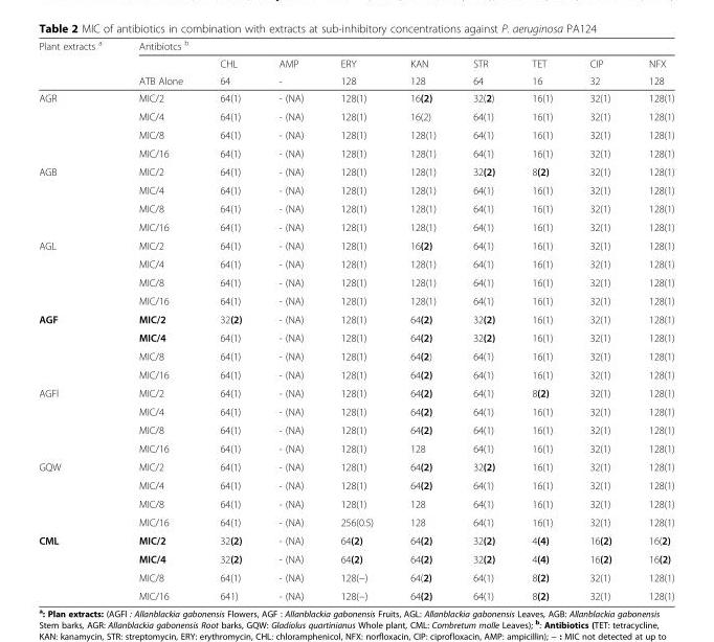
<table><thead><tr><td rowspan="3">Plant extracts <sup>a</sup></td><td colspan="9">Antibiotcs <sup>b</sup></td></tr><tr><td rowspan="2">ATB Alone</td><td rowspan="2">CHL 64</td><td rowspan="2">AMP -</td><td rowspan="2">ERY 128</td><td rowspan="2">KAN 128</td><td rowspan="2">STR 64</td><td rowspan="2">TET 16</td><td rowspan="2">CIP 32</td><td rowspan="2">NFX 128</td></tr><tr></tr></thead><tbody><tr><td rowspan="4">AGR</td><td>MIC/2</td><td>64(1)</td><td>- (NA)</td><td>128(1)</td><td>16(2)</td><td>32(2)</td><td>16(1)</td><td>32(1)</td><td>128(1)</td></tr><tr><td>MIC/4</td><td>64(1)</td><td>- (NA)</td><td>128(1)</td><td>16(2)</td><td>64(1)</td><td>16(1)</td><td>32(1)</td><td>128(1)</td></tr><tr><td>MIC/8</td><td>64(1)</td><td>- (NA)</td><td>128(1)</td><td>128(1)</td><td>64(1)</td><td>16(1)</td><td>32(1)</td><td>128(1)</td></tr><tr><td>MIC/16</td><td>64(1)</td><td>- (NA)</td><td>128(1)</td><td>128(1)</td><td>64(1)</td><td>16(1)</td><td>32(1)</td><td>128(1)</td></tr><tr><td rowspan="4">AGB</td><td>MIC/2</td><td>64(1)</td><td>- (NA)</td><td>128(1)</td><td>128(1)</td><td>32(2)</td><td>8(2)</td><td>32(1)</td><td>128(1)</td></tr><tr><td>MIC/4</td><td>64(1)</td><td>- (NA)</td><td>128(1)</td><td>128(1)</td><td>64(1)</td><td>16(1)</td><td>32(1)</td><td>128(1)</td></tr><tr><td>MIC/8</td><td>64(1)</td><td>- (NA)</td><td>128(1)</td><td>128(1)</td><td>64(1)</td><td>16(1)</td><td>32(1)</td><td>128(1)</td></tr><tr><td>MIC/16</td><td>64(1)</td><td>- (NA)</td><td>128(1)</td><td>128(1)</td><td>64(1)</td><td>16(1)</td><td>32(1)</td><td>128(1)</td></tr><tr><td rowspan="4">AGL</td><td>MIC/2</td><td>64(1)</td><td>- (NA)</td><td>128(1)</td><td>16(2)</td><td>64(1)</td><td>16(1)</td><td>32(1)</td><td>128(1)</td></tr><tr><td>MIC/4</td><td>64(1)</td><td>- (NA)</td><td>128(1)</td><td>128(1)</td><td>64(1)</td><td>16(1)</td><td>32(1)</td><td>128(1)</td></tr><tr><td>MIC/8</td><td>64(1)</td><td>- (NA)</td><td>128(1)</td><td>128(1)</td><td>64(1)</td><td>16(1)</td><td>32(1)</td><td>128(1)</td></tr><tr><td>MIC/16</td><td>64(1)</td><td>- (NA)</td><td>128(1)</td><td>128(1)</td><td>64(1)</td><td>16(1)</td><td>32(1)</td><td>128(1)</td></tr><tr><td rowspan="4">AGF</td><td>MIC/2</td><td>32(2)</td><td>- (NA)</td><td>128(1)</td><td>64(2)</td><td>32(2)</td><td>16(1)</td><td>32(1)</td><td>128(1)</td></tr><tr><td>MIC/4</td><td>64(1)</td><td>- (NA)</td><td>128(1)</td><td>64(2)</td><td>32(2)</td><td>16(1)</td><td>32(1)</td><td>128(1)</td></tr><tr><td>MIC/8</td><td>64(1)</td><td>- (NA)</td><td>128(1)</td><td>64(2)</td><td>64(1)</td><td>16(1)</td><td>32(1)</td><td>128(1)</td></tr><tr><td>MIC/16</td><td>64(1)</td><td>- (NA)</td><td>128(1)</td><td>64(2)</td><td>64(1)</td><td>16(1)</td><td>32(1)</td><td>128(1)</td></tr><tr><td rowspan="4">AGFl</td><td>MIC/2</td><td>64(1)</td><td>- (NA)</td><td>128(1)</td><td>64(2)</td><td>64(1)</td><td>8(2)</td><td>32(1)</td><td>128(1)</td></tr><tr><td>MIC/4</td><td>64(1)</td><td>- (NA)</td><td>128(1)</td><td>64(2)</td><td>64(1)</td><td>16(1)</td><td>32(1)</td><td>128(1)</td></tr><tr><td>MIC/8</td><td>64(1)</td><td>- (NA)</td><td>128(1)</td><td>64(2)</td><td>64(1)</td><td>16(1)</td><td>32(1)</td><td>128(1)</td></tr><tr><td>MIC/16</td><td>64(1)</td><td>- (NA)</td><td>128(1)</td><td>128</td><td>64(1)</td><td>16(1)</td><td>32(1)</td><td>128(1)</td></tr><tr><td rowspan="4">GQW</td><td>MIC/2</td><td>64(1)</td><td>- (NA)</td><td>128(1)</td><td>64(2)</td><td>32(2)</td><td>16(1)</td><td>32(1)</td><td>128(1)</td></tr><tr><td>MIC/4</td><td>64(1)</td><td>- (NA)</td><td>128(1)</td><td>64(2)</td><td>64(1)</td><td>16(1)</td><td>32(1)</td><td>128(1)</td></tr><tr><td>MIC/8</td><td>64(1)</td><td>- (NA)</td><td>128(1)</td><td>128</td><td>64(1)</td><td>16(1)</td><td>32(1)</td><td>128(1)</td></tr><tr><td>MIC/16</td><td>64(1)</td><td>- (NA)</td><td>256(0.5)</td><td>128</td><td>64(1)</td><td>16(1)</td><td>32(1)</td><td>128(1)</td></tr><tr><td rowspan="4">CML</td><td>MIC/2</td><td>32(2)</td><td>- (NA)</td><td>64(2)</td><td>64(2)</td><td>32(2)</td><td>4(4)</td><td>16(2)</td><td>16(2)</td></tr><tr><td>MIC/4</td><td>32(2)</td><td>- (NA)</td><td>64(2)</td><td>64(2)</td><td>32(2)</td><td>4(4)</td><td>16(2)</td><td>16(2)</td></tr><tr><td>MIC/8</td><td>64(1)</td><td>- (NA)</td><td>128(−)</td><td>64(2)</td><td>64(1)</td><td>8(2)</td><td>32(1)</td><td>128(1)</td></tr><tr><td>MIC/16</td><td>641)</td><td>- (NA)</td><td>128(−)</td><td>64(2)</td><td>64(1)</td><td>8(2)</td><td>32(1)</td><td>128(1)</td></tr></tbody></table>